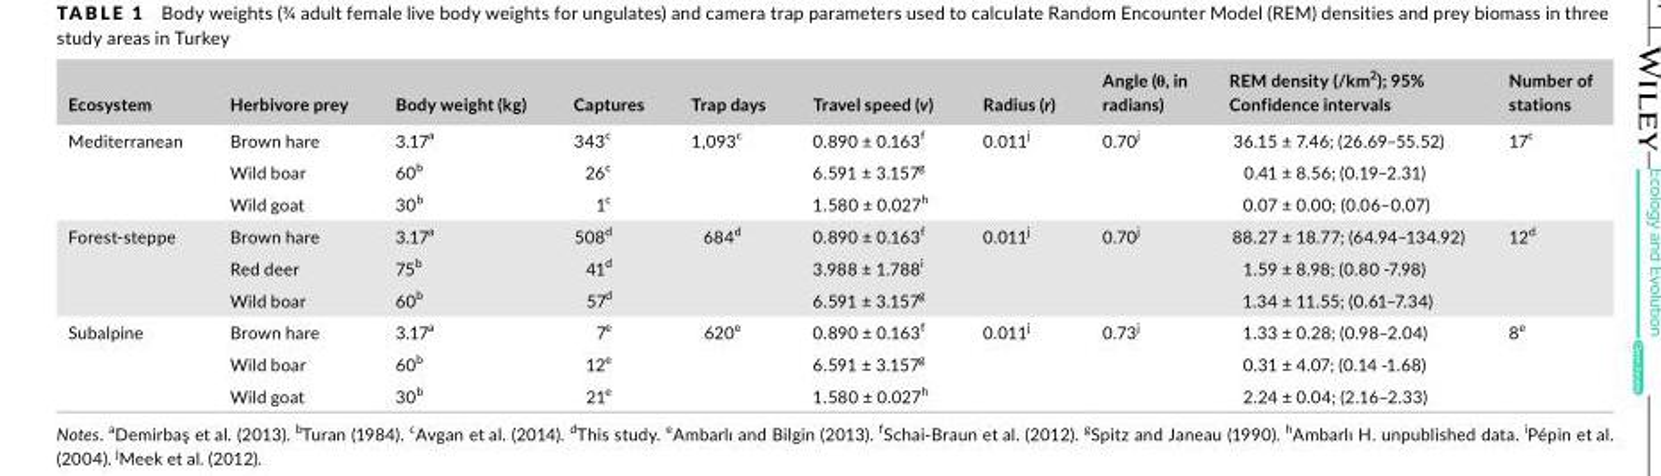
<table><thead><tr><td>Ecosystem</td><td>Herbivore prey</td><td>Body weight (kg)</td><td>Captures</td><td>Trap days</td><td>Travel speed (v)</td><td>Radius (r)</td><td>Angle (θ, in radians)</td><td>REM density (/km<sup>2</sup>); 95% Confidence intervals</td><td>Number of stations</td></tr></thead><tbody><tr><td rowspan="3">Mediterranean</td><td>Brown hare</td><td>3.17<sup>a</sup></td><td>343<sup>c</sup></td><td rowspan="3">1,093<sup>c</sup></td><td>0.890 ± 0.163<sup>f</sup></td><td rowspan="3">0.011<sup>j</sup></td><td rowspan="3">0.70<sup>j</sup></td><td>36.15 ± 7.46; (26.69–55.52)</td><td rowspan="3">17<sup>c</sup></td></tr><tr><td>Wild boar</td><td>60<sup>b</sup></td><td>26<sup>c</sup></td><td>6.591 ± 3.157<sup>g</sup></td><td>0.41 ± 8.56; (0.19–2.31)</td></tr><tr><td>Wild goat</td><td>30<sup>b</sup></td><td>1<sup>c</sup></td><td>1.580 ± 0.027<sup>h</sup></td><td>0.07 ± 0.00; (0.06–0.07)</td></tr><tr><td rowspan="3">Forest- steppe</td><td>Brown hare</td><td>3.17<sup>a</sup></td><td>508<sup>d</sup></td><td rowspan="3">684<sup>d</sup></td><td>0.890 ± 0.163<sup>f</sup></td><td rowspan="3">0.011<sup>j</sup></td><td rowspan="3">0.70<sup>j</sup></td><td>88.27 ± 18.77; (64.94–134.92)</td><td rowspan="3">12<sup>d</sup></td></tr><tr><td>Red deer</td><td>75<sup>b</sup></td><td>41<sup>d</sup></td><td>3.988 ± 1.788<sup>i</sup></td><td>1.59 ± 8.98; (0.80 - 7.98)</td></tr><tr><td>Wild boar</td><td>60<sup>b</sup></td><td>57<sup>d</sup></td><td>6.591 ± 3.157<sup>g</sup></td><td>1.34 ± 11.55; (0.61–7.34)</td></tr><tr><td rowspan="3">Subalpine</td><td>Brown hare</td><td>3.17<sup>a</sup></td><td>7<sup>e</sup></td><td rowspan="3">620<sup>e</sup></td><td>0.890 ± 0.163<sup>f</sup></td><td rowspan="3">0.011<sup>j</sup></td><td rowspan="3">0.73<sup>j</sup></td><td>1.33 ± 0.28; (0.98–2.04)</td><td rowspan="3">8<sup>e</sup></td></tr><tr><td>Wild boar</td><td>60<sup>b</sup></td><td>12<sup>e</sup></td><td>6.591 ± 3.157<sup>g</sup></td><td>0.31 ± 4.07; (0.14 - 1.68)</td></tr><tr><td>Wild goat</td><td>30<sup>b</sup></td><td>21<sup>e</sup></td><td>1.580 ± 0.027<sup>h</sup></td><td>2.24 ± 0.04; (2.16–2.33)</td></tr></tbody></table>